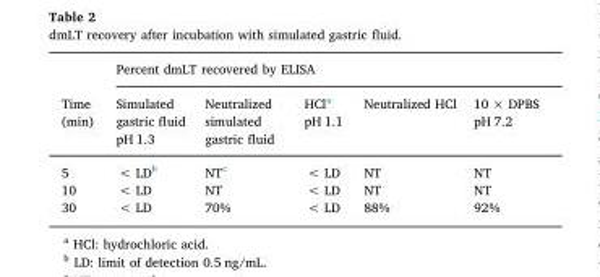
<table><thead><tr><td rowspan="2">Time (min)</td><td colspan="5">Percent dmLT recovered by ELISA</td></tr><tr><td>Simulated gastric fluid pH 1.3</td><td>Neutralized simulated gastric fluid</td><td>HCl<sup>a</sup> pH 1.1</td><td>Neutralized HCl</td><td>10 × DPBS pH 7.2</td></tr></thead><tbody><tr><td>5</td><td>&lt; LD<sup>b</sup></td><td>NT<sup>c</sup></td><td>&lt; LD</td><td>NT</td><td>NT</td></tr><tr><td>10</td><td>&lt; LD</td><td>NT</td><td>&lt; LD</td><td>NT</td><td>NT</td></tr><tr><td>30</td><td>&lt; LD</td><td>70%</td><td>&lt; LD</td><td>88%</td><td>92%</td></tr></tbody></table>